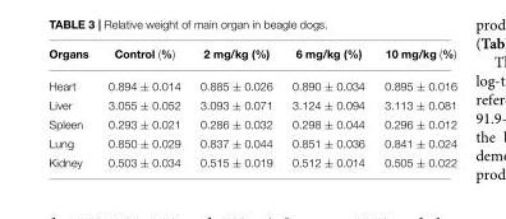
<table><thead><tr><td>Organs</td><td>Control (%)</td><td>2 mg/kg (%)</td><td>6 mg/kg (%)</td><td>10 mg/kg (%)</td></tr></thead><tbody><tr><td>Heart</td><td>0.894 ± 0.014</td><td>0.885 ± 0.026</td><td>0.890 ± 0.034</td><td>0.895 ± 0.016</td></tr><tr><td>Liver</td><td>3.055 ± 0.052</td><td>3.093 ± 0.071</td><td>3.124 ± 0.094</td><td>3.113 ± 0.081</td></tr><tr><td>Spleen</td><td>0.293 ± 0.021</td><td>0.286 ± 0.032</td><td>0.298 ± 0.044</td><td>0.296 ± 0.012</td></tr><tr><td>Lung</td><td>0.850 ± 0.029</td><td>0.837 ± 0.044</td><td>0.851 ± 0.036</td><td>0.841 ± 0.024</td></tr><tr><td>Kidney</td><td>0.503 ± 0.034</td><td>0.515 ± 0.019</td><td>0.512 ± 0.014</td><td>0.505 ± 0.022</td></tr></tbody></table>